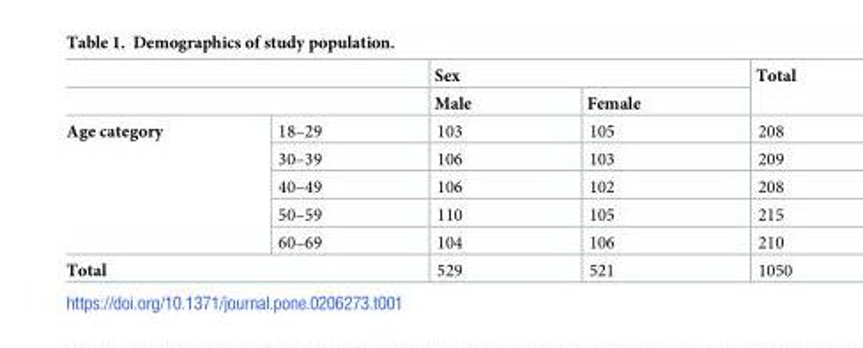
<table><thead><tr><td rowspan="2"></td><td rowspan="2"></td><td colspan="2">Sex</td><td rowspan="2">Total</td></tr><tr><td>Male</td><td>Female</td></tr></thead><tbody><tr><td rowspan="5">Age category</td><td>18–29</td><td>103</td><td>105</td><td>208</td></tr><tr><td>30–39</td><td>106</td><td>103</td><td>209</td></tr><tr><td>40–49</td><td>106</td><td>102</td><td>208</td></tr><tr><td>50–59</td><td>110</td><td>105</td><td>215</td></tr><tr><td>60–69</td><td>104</td><td>106</td><td>210</td></tr><tr><td colspan="2">Total</td><td>529</td><td>521</td><td>1050</td></tr></tbody></table>